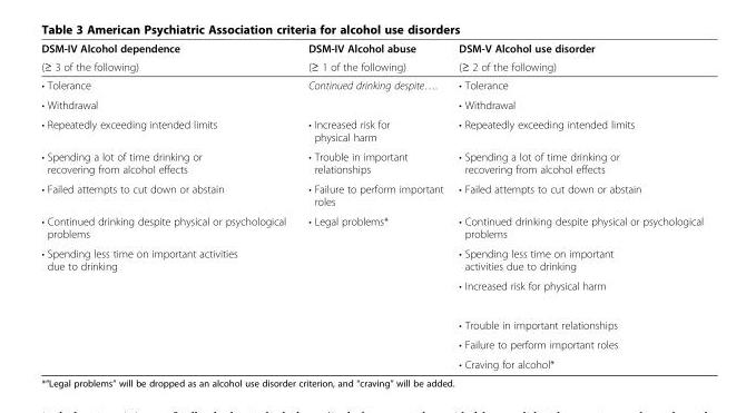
<table><thead><tr><td rowspan="2">DSM-IV Alcohol dependence (≥ 3 of the following)</td><td rowspan="2">DSM-IV Alcohol abuse (≥ 1 of the following)</td><td rowspan="2">DSM-V Alcohol use disorder (≥ 2 of the following)</td></tr><tr></tr></thead><tbody><tr><td>• Tolerance</td><td rowspan="2">Continued drinking despite….</td><td>• Tolerance</td></tr><tr><td>• Withdrawal</td><td>• Withdrawal</td></tr><tr><td>• Repeatedly exceeding intended limits</td><td>• Increased risk for physical harm</td><td>• Repeatedly exceeding intended limits</td></tr><tr><td>• Spending a lot of time drinking or recovering from alcohol effects</td><td>• Trouble in important relationships</td><td>• Spending a lot of time drinking or recovering from alcohol effects</td></tr><tr><td>• Failed attempts to cut down or abstain</td><td>• Failure to perform important roles</td><td>• Failed attempts to cut down or abstain</td></tr><tr><td>• Continued drinking despite physical or psychological problems</td><td>• Legal problems*</td><td>• Continued drinking despite physical or psychological problems</td></tr><tr><td rowspan="5">• Spending less time on important activities due to drinking</td><td></td><td>• Spending less time on important activities due to drinking</td></tr><tr><td></td><td>• Increased risk for physical harm</td></tr><tr><td></td><td>• Trouble in important relationships</td></tr><tr><td></td><td>• Failure to perform important roles</td></tr><tr><td></td><td>• Craving for alcohol*</td></tr></tbody></table>